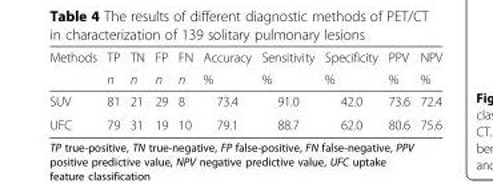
<table><thead><tr><td rowspan="2">Methods</td><td rowspan="2">TP n</td><td rowspan="2">TN n</td><td rowspan="2">FP n</td><td rowspan="2">FN n</td><td rowspan="2">Accuracy %</td><td rowspan="2">Sensitivity %</td><td rowspan="2">Specificity %</td><td rowspan="2">PPV %</td><td rowspan="2">NPV %</td></tr><tr></tr></thead><tbody><tr><td>SUV</td><td>81</td><td>21</td><td>29</td><td>8</td><td>73.4</td><td>91.0</td><td>42.0</td><td>73.6</td><td>72.4</td></tr><tr><td>UFC</td><td>79</td><td>31</td><td>19</td><td>10</td><td>79.1</td><td>88.7</td><td>62.0</td><td>80.6</td><td>75.6</td></tr></tbody></table>